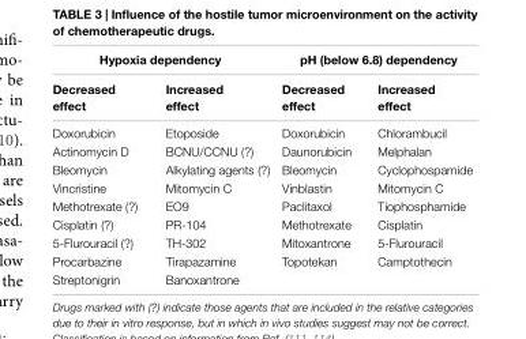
<table><thead><tr><td colspan="2">Hypoxia dependency</td><td colspan="2">pH (below 6.8) dependency</td></tr><tr><td>Decreased effect</td><td>increased effect</td><td>Decreased effect</td><td>increased effect</td></tr></thead><tbody><tr><td>Doxorubicin</td><td>Etoposide</td><td>Doxorubicin</td><td>Chlorambucil</td></tr><tr><td>Actinomycin D</td><td>BCNU/CCNU (?)</td><td>Daunorubicin</td><td>Melphalan</td></tr><tr><td>Bleomycin</td><td>Alkylating agents (?)</td><td>Bleomycin</td><td>Cyclophospamide</td></tr><tr><td>Vincristine</td><td>Mitomycin C</td><td>Vinblastin</td><td>Mitomycin C</td></tr><tr><td>Methotrexate (?)</td><td>EO9</td><td>Paclitaxol</td><td>Tiophosphamide</td></tr><tr><td>Cisplatin (?)</td><td>PR-104</td><td>Methotrexate</td><td>Cisplatin</td></tr><tr><td>5-Flurouracil (?)</td><td>TH-302</td><td>Mitoxantrone</td><td>5-Flurouracil</td></tr><tr><td>Procarbazine</td><td>Tirapazamine</td><td>Topotekan</td><td>Camptothecin</td></tr><tr><td>Streptonigrin</td><td>Banoxantrone</td><td></td><td></td></tr></tbody></table>